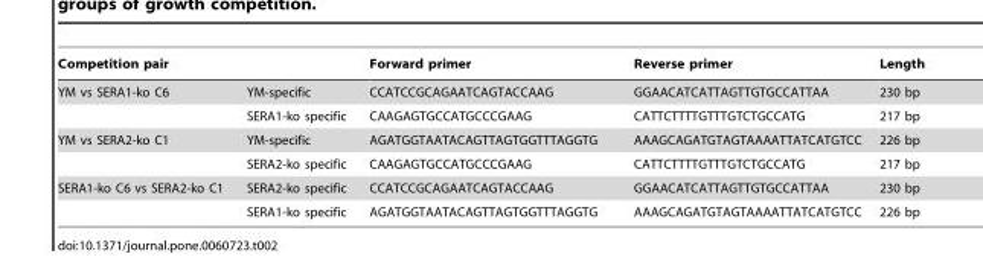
<table><thead><tr><td colspan="2">Competition pair</td><td rowspan="2">Forward primer CCATCCGCAGAATCAGTACCAAG</td><td rowspan="2">Reverse primer GGAACATCATTAGTTGTGCCATTAA</td><td rowspan="2">Length 230 bp</td></tr><tr><td>YM vs SERA1-ko C6</td><td>YM-specific</td></tr></thead><tbody><tr><td></td><td>SERA1-ko specific</td><td>CAAGAGTGCCATGCCCGAAG</td><td>CATTCTTTTGTTTGTCTGCCATG</td><td>217 bp</td></tr><tr><td rowspan="2">YM vs SERA2-ko C1</td><td>YM-specific</td><td>AGATGGTAATACAGTTAGTGGTTTAGGTG</td><td>AAAGCAGATGTAGTAAAATTATCATGTCC</td><td>226 bp</td></tr><tr><td>SERA2-ko specific</td><td>CAAGAGTGCCATGCCCGAAG</td><td>CATTCTTTTGTTTGTCTGCCATG</td><td>217 bp</td></tr><tr><td rowspan="2">SERA1-ko C6 vs SERA2-ko C1</td><td>SERA2-ko specific</td><td>CCATCCGCAGAATCAGTACCAAG</td><td>GGAACATCATTAGTTGTGCCATTAA</td><td>230 bp</td></tr><tr><td>SERA1-ko specific</td><td>AGATGGTAATACAGTTAGTGGTTTAGGTG</td><td>AAAGCAGATGTAGTAAAATTATCATGTCC</td><td>226 bp</td></tr></tbody></table>